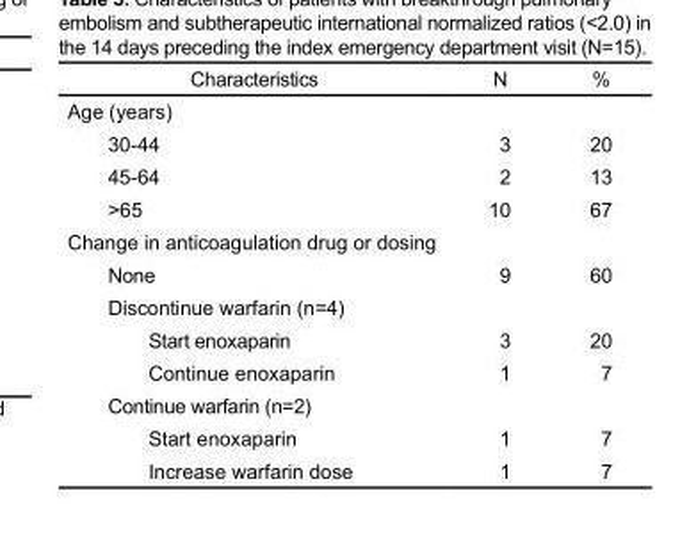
<table><thead><tr><td>Characteristics</td><td>N</td><td>%</td></tr></thead><tbody><tr><td colspan="3">Age (years)</td></tr><tr><td>30-44</td><td>3</td><td>20</td></tr><tr><td>45-64</td><td>2</td><td>13</td></tr><tr><td>&gt;65</td><td>10</td><td>67</td></tr><tr><td colspan="3">Change in anticoagulation drug or dosing</td></tr><tr><td>None</td><td>9</td><td>60</td></tr><tr><td colspan="3">Discontinue warfarin (n=4)</td></tr><tr><td>Start enoxaparin</td><td>3</td><td>20</td></tr><tr><td>Continue enoxaparin</td><td>1</td><td>7</td></tr><tr><td colspan="3">Continue warfarin (n=2)</td></tr><tr><td>Start enoxaparin</td><td>1</td><td>7</td></tr><tr><td>Increase warfarin dose</td><td>1</td><td>7</td></tr></tbody></table>